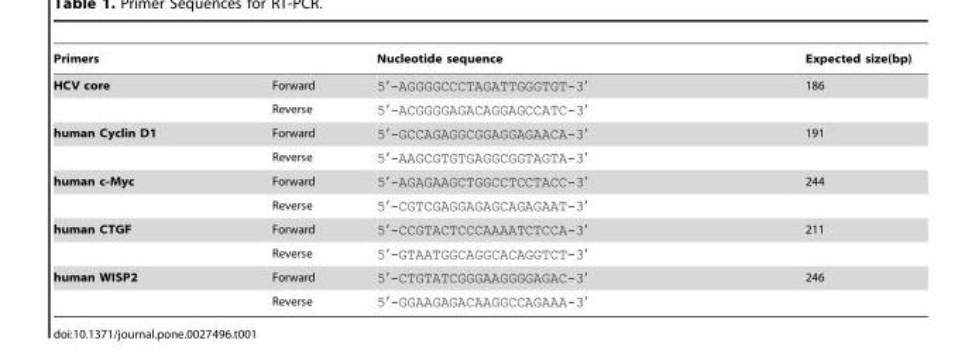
<table><thead><tr><td>Primers</td><td></td><td>Nucleotide sequence</td><td>Expected size(bp)</td></tr></thead><tbody><tr><td rowspan="2">HCV core</td><td>Forward</td><td>5′-AGGGGCCCTAGATTGGGTGT-3′</td><td>186</td></tr><tr><td>Reverse</td><td>5′-ACGGGGAGACAGGAGCCATC-3′</td><td></td></tr><tr><td rowspan="2">human Cyclin D1</td><td>Forward</td><td>5′-GCCAGAGGCGGAGGAGAACA-3′</td><td>191</td></tr><tr><td>Reverse</td><td>5′-AAGCGTGTGAGGCGGTAGTA-3′</td><td></td></tr><tr><td rowspan="2">human c-Myc</td><td>Forward</td><td>5′-AGAGAAGCTGGCCTCCTACC-3′</td><td>244</td></tr><tr><td>Reverse</td><td>5′-CGTCGAGGAGAGCAGAGAAT-3′</td><td></td></tr><tr><td rowspan="2">human CTGF</td><td>Forward</td><td>5′-CCGTACTCCCAAAATCTCCA-3′</td><td>211</td></tr><tr><td>Reverse</td><td>5′-GTAATGGCAGGCACAGGTCT-3′</td><td></td></tr><tr><td rowspan="2">human WISP2</td><td>Forward</td><td>5′-CTGTATCGGGAAGGGGAGAC-3′</td><td>246</td></tr><tr><td>Reverse</td><td>5′-GGAAGAGACAAGGCCAGAAA-3′</td><td></td></tr></tbody></table>